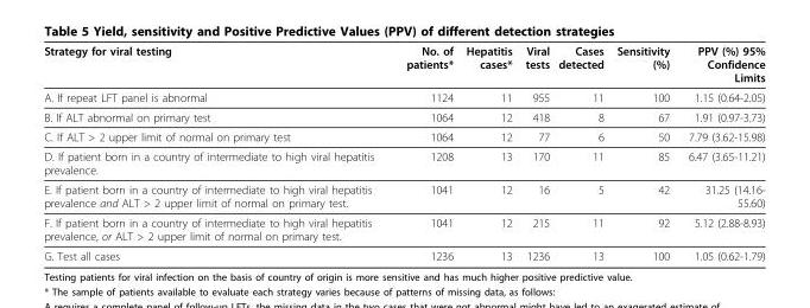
<table><thead><tr><td>Strategy for viral testing</td><td>No. of patients*</td><td>Hepatitis cases*</td><td>Viral tests</td><td>Cases detected</td><td>Sensitivity (%)</td><td>PPV (%) 95% Confidence Limits</td></tr></thead><tbody><tr><td>A. If repeat LFT panel is abnormal</td><td>1124</td><td>11</td><td>955</td><td>11</td><td>100</td><td>1.15 (0.64-2.05)</td></tr><tr><td>B. If ALT abnormal on primary test</td><td>1064</td><td>12</td><td>418</td><td>8</td><td>67</td><td>1.91 (0.97-3.73)</td></tr><tr><td>C. If ALT &gt; 2 upper limit of normal on primary test</td><td>1064</td><td>12</td><td>77</td><td>6</td><td>50</td><td>7.79 (3.62-15.98)</td></tr><tr><td>D. If patient born in a country of intermediate to high viral hepatitis prevalence.</td><td>1208</td><td>13</td><td>170</td><td>11</td><td>85</td><td>6.47 (3.65-11.21)</td></tr><tr><td>E. If patient born in a country of intermediate to high viral hepatitis prevalence and ALT &gt; 2 upper limit of normal on primary test.</td><td>1041</td><td>12</td><td>16</td><td>5</td><td>42</td><td>31.25 (14.16- 55.60)</td></tr><tr><td>F. If patient born in a country of intermediate to high viral hepatitis prevalence, or ALT &gt; 2 upper limit of normal on primary test.</td><td>1041</td><td>12</td><td>215</td><td>11</td><td>92</td><td>5.12 (2.88-8.93)</td></tr><tr><td>G. Test all cases</td><td>1236</td><td>13</td><td>1236</td><td>13</td><td>100</td><td>1.05 (0.62-1.79)</td></tr></tbody></table>